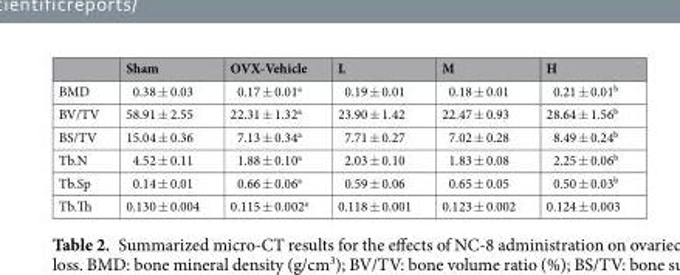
<table><thead><tr><td></td><td>Sham</td><td>OVX-Vehicle</td><td>L</td><td>M</td><td>H</td></tr></thead><tbody><tr><td>BMD</td><td>0.38 ± 0.03</td><td>0.17 ± 0.01<sup>a</sup></td><td>0.19 ± 0.01</td><td>0.18 ± 0.01</td><td>0.21 ± 0.01<sup>b</sup></td></tr><tr><td>BV/TV</td><td>58.91 ± 2.55</td><td>22.31 ± 1.32<sup>a</sup></td><td>23.90 ± 1.42</td><td>22.47 ± 0.93</td><td>28.64 ± 1.56<sup>b</sup></td></tr><tr><td>BS/TV</td><td>15.04 ± 0.36</td><td>7.13 ± 0.34<sup>a</sup></td><td>7.71 ± 0.27</td><td>7.02 ± 0.28</td><td>8.49 ± 0.24<sup>b</sup></td></tr><tr><td>Tb.N</td><td>4.52 ± 0.11</td><td>1.88 ± 0.10<sup>a</sup></td><td>2.03 ± 0.10</td><td>1.83 ± 0.08</td><td>2.25 ± 0.06<sup>b</sup></td></tr><tr><td>Tb.Sp</td><td>0.14 ± 0.01</td><td>0.66 ± 0.06<sup>a</sup></td><td>0.59 ± 0.06</td><td>0.65 ± 0.05</td><td>0.50 ± 0.03<sup>b</sup></td></tr><tr><td>Tb.Th</td><td>0.130 ± 0.004</td><td>0.115 ± 0.002<sup>a</sup></td><td>0.118 ± 0.001</td><td>0.123 ± 0.002</td><td>0.124 ± 0.003</td></tr></tbody></table>